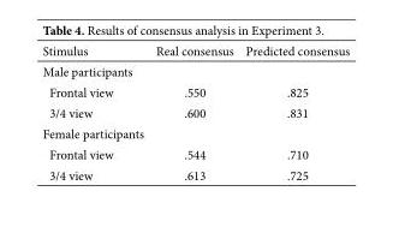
<table><thead><tr><td>Stimulus</td><td>Real consensus</td><td>Predicted consensus</td></tr></thead><tbody><tr><td colspan="3">Male participants</td></tr><tr><td>Frontal view</td><td>.550</td><td>.825</td></tr><tr><td>3/4 view</td><td>.600</td><td>.831</td></tr><tr><td colspan="3">Female participants</td></tr><tr><td>Frontal view</td><td>.544</td><td>.710</td></tr><tr><td>3/4 view</td><td>.613</td><td>.725</td></tr></tbody></table>